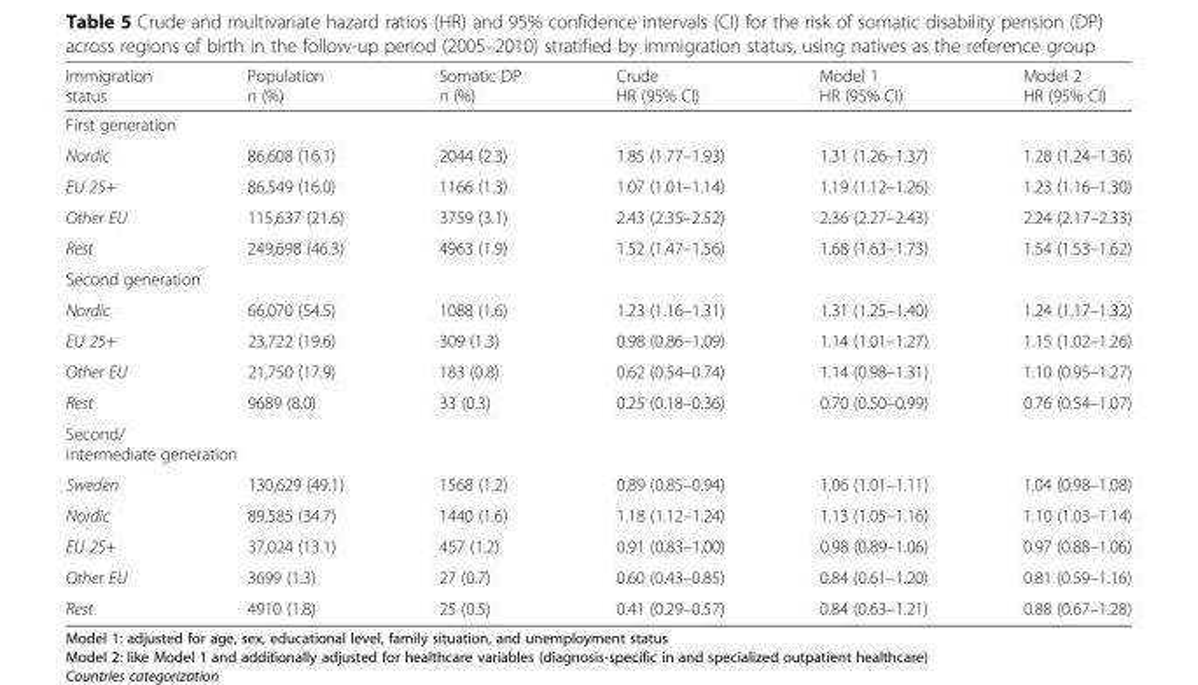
<table><thead><tr><td>Immigration status</td><td>Population n (%)</td><td>Somatic DP n (%)</td><td>Crude HR (95% CI)</td><td>Model 1 HR (95% CI)</td><td>Model 2 HR (95% CI)</td></tr></thead><tbody><tr><td colspan="6">First generation</td></tr><tr><td>Nordic</td><td>86,608 (16.1)</td><td>2044 (2.3)</td><td>1.85 (1.77–1.93)</td><td>1.31 (1.26–1.37)</td><td>1.28 (1.24–1.36)</td></tr><tr><td>EU 25+</td><td>86,549 (16.0)</td><td>1166 (1.3)</td><td>1.07 (1.01–1.14)</td><td>1.19 (1.12–1.26)</td><td>1.23 (1.16–1.30)</td></tr><tr><td>Other EU</td><td>115,637 (21.6)</td><td>3759 (3.1)</td><td>2.43 (2.35–2.52)</td><td>2.36 (2.27–2.43)</td><td>2.24 (2.17–2.33)</td></tr><tr><td>Rest</td><td>249,698 (46.3)</td><td>4963 (1.9)</td><td>1.52 (1.47–1.56)</td><td>1.68 (1.63–1.73)</td><td>1.54 (1.53–1.62)</td></tr><tr><td colspan="6">Second generation</td></tr><tr><td>Nordic</td><td>66,070 (54.5)</td><td>1088 (1.6)</td><td>1.23 (1.16–1.31)</td><td>1.31 (1.25–1.40)</td><td>1.24 (1.17–1.32)</td></tr><tr><td>EU 25+</td><td>23,722 (19.6)</td><td>309 (1.3)</td><td>0.98 (0.86–1.09)</td><td>1.14 (1.01–1.27)</td><td>1.15 (1.02–1.26)</td></tr><tr><td>Other EU</td><td>21,750 (17.9)</td><td>183 (0.8)</td><td>0.62 (0.54–0.74)</td><td>1.14 (0.98–1.31)</td><td>1.10 (0.95–1.27)</td></tr><tr><td>Rest</td><td>9689 (8.0)</td><td>33 (0.3)</td><td>0.25 (0.18–0.36)</td><td>0.70 (0.50–0.99)</td><td>0.76 (0.54–1.07)</td></tr><tr><td colspan="6">Second/ intermediate generation</td></tr><tr><td>Sweden</td><td>130,629 (49.1)</td><td>1568 (1.2)</td><td>0.89 (0.85–0.94)</td><td>1.06 (1.01–1.11)</td><td>1.04 (0.98–1.08)</td></tr><tr><td>Nordic</td><td>89,585 (34.7)</td><td>1440 (1.6)</td><td>1.18 (1.12–1.24)</td><td>1.13 (1.05–1.16)</td><td>1.10 (1.03–1.14)</td></tr><tr><td>EU 25+</td><td>37,024 (13.1)</td><td>457 (1.2)</td><td>0.91 (0.83–1.00)</td><td>0.98 (0.89–1.06)</td><td>0.97 (0.88–1.06)</td></tr><tr><td>Other EU</td><td>3699 (1.3)</td><td>27 (0.7)</td><td>0.60 (0.43–0.85)</td><td>0.84 (0.61–1.20)</td><td>0.81 (0.59–1.16)</td></tr><tr><td>Rest</td><td>4910 (1.8)</td><td>25 (0.5)</td><td>0.41 (0.29–0.57)</td><td>0.84 (0.63–1.21)</td><td>0.88 (0.67–1.28)</td></tr></tbody></table>